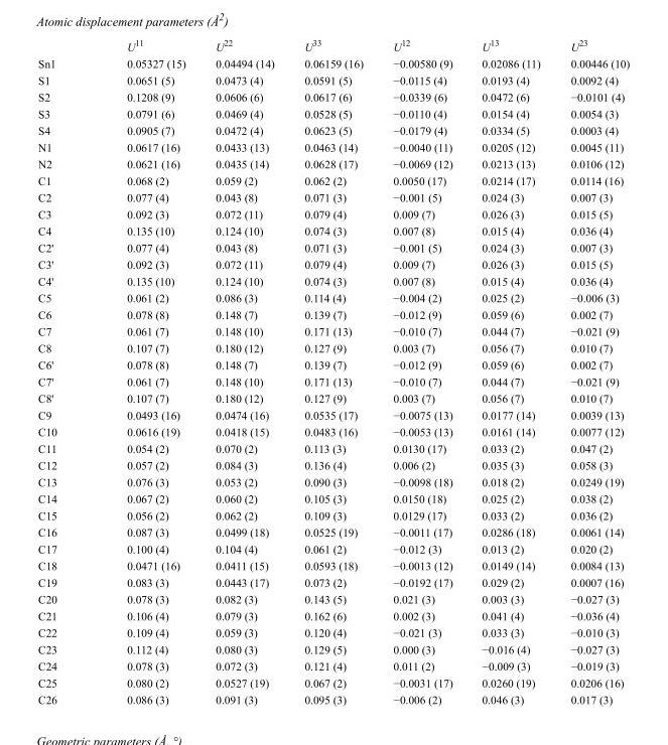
<table><thead><tr><td></td><td>U<sup>11</sup></td><td>U<sup>22</sup></td><td>U<sup>33</sup></td><td>U<sup>12</sup></td><td>U<sup>13</sup></td><td>U<sup>23</sup></td></tr></thead><tbody><tr><td>Sn1</td><td>0.05327 (15)</td><td>0.04494 (14)</td><td>0.06159 (16)</td><td>−0.00580 (9)</td><td>0.02086 (11)</td><td>0.00446 (10)</td></tr><tr><td>S1</td><td>0.0651 (5)</td><td>0.0473 (4)</td><td>0.0591 (5)</td><td>−0.0115 (4)</td><td>0.0193 (4)</td><td>0.0092 (4)</td></tr><tr><td>S2</td><td>0.1208 (9)</td><td>0.0606 (6)</td><td>0.0617 (6)</td><td>−0.0339 (6)</td><td>0.0472 (6)</td><td>−0.0101 (4)</td></tr><tr><td>S3</td><td>0.0791 (6)</td><td>0.0469 (4)</td><td>0.0528 (5)</td><td>−0.0110 (4)</td><td>0.0154 (4)</td><td>0.0054 (3)</td></tr><tr><td>S4</td><td>0.0905 (7)</td><td>0.0472 (4)</td><td>0.0623 (5)</td><td>−0.0179 (4)</td><td>0.0334 (5)</td><td>0.0003 (4)</td></tr><tr><td>N1</td><td>0.0617 (16)</td><td>0.0433 (13)</td><td>0.0463 (14)</td><td>−0.0040 (11)</td><td>0.0205 (12)</td><td>0.0045 (11)</td></tr><tr><td>N2</td><td>0.0621 (16)</td><td>0.0435 (14)</td><td>0.0628 (17)</td><td>−0.0069 (12)</td><td>0.0213 (13)</td><td>0.0106 (12)</td></tr><tr><td>C1</td><td>0.068 (2)</td><td>0.059 (2)</td><td>0.062 (2)</td><td>0.0050 (17)</td><td>0.0214 (17)</td><td>0.0114 (16)</td></tr><tr><td>C2</td><td>0.077 (4)</td><td>0.043 (8)</td><td>0.071 (3)</td><td>−0.001 (5)</td><td>0.024 (3)</td><td>0.007 (3)</td></tr><tr><td>C3</td><td>0.092 (3)</td><td>0.072 (11)</td><td>0.079 (4)</td><td>0.009 (7)</td><td>0.026 (3)</td><td>0.015 (5)</td></tr><tr><td>C4</td><td>0.135 (10)</td><td>0.124 (10)</td><td>0.074 (3)</td><td>0.007 (8)</td><td>0.015 (4)</td><td>0.036 (4)</td></tr><tr><td>C2&#x27;</td><td>0.077 (4)</td><td>0.043 (8)</td><td>0.071 (3)</td><td>−0.001 (5)</td><td>0.024 (3)</td><td>0.007 (3)</td></tr><tr><td>C3&#x27;</td><td>0.092 (3)</td><td>0.072 (11)</td><td>0.079 (4)</td><td>0.009 (7)</td><td>0.026 (3)</td><td>0.015 (5)</td></tr><tr><td>C4&#x27;</td><td>0.135 (10)</td><td>0.124 (10)</td><td>0.074 (3)</td><td>0.007 (8)</td><td>0.015 (4)</td><td>0.036 (4)</td></tr><tr><td>C5</td><td>0.061 (2)</td><td>0.086 (3)</td><td>0.114 (4)</td><td>−0.004 (2)</td><td>0.025 (2)</td><td>−0.006 (3)</td></tr><tr><td>C6</td><td>0.078 (8)</td><td>0.148 (7)</td><td>0.139 (7)</td><td>−0.012 (9)</td><td>0.059 (6)</td><td>0.002 (7)</td></tr><tr><td>C7</td><td>0.061 (7)</td><td>0.148 (10)</td><td>0.171 (13)</td><td>−0.010 (7)</td><td>0.044 (7)</td><td>−0.021 (9)</td></tr><tr><td>C8</td><td>0.107 (7)</td><td>0.180 (12)</td><td>0.127 (9)</td><td>0.003 (7)</td><td>0.056 (7)</td><td>0.010 (7)</td></tr><tr><td>C6&#x27;</td><td>0.078 (8)</td><td>0.148 (7)</td><td>0.139 (7)</td><td>−0.012 (9)</td><td>0.059 (6)</td><td>0.002 (7)</td></tr><tr><td>C7&#x27;</td><td>0.061 (7)</td><td>0.148 (10)</td><td>0.171 (13)</td><td>−0.010 (7)</td><td>0.044 (7)</td><td>−0.021 (9)</td></tr><tr><td>C8&#x27;</td><td>0.107 (7)</td><td>0.180 (12)</td><td>0.127 (9)</td><td>0.003 (7)</td><td>0.056 (7)</td><td>0.010 (7)</td></tr><tr><td>C9</td><td>0.0493 (16)</td><td>0.0474 (16)</td><td>0.0535 (17)</td><td>−0.0075 (13)</td><td>0.0177 (14)</td><td>0.0039 (13)</td></tr><tr><td>C10</td><td>0.0616 (19)</td><td>0.0418 (15)</td><td>0.0483 (16)</td><td>−0.0053 (13)</td><td>0.0161 (14)</td><td>0.0077 (12)</td></tr><tr><td>C11</td><td>0.054 (2)</td><td>0.070 (2)</td><td>0.113 (3)</td><td>0.0130 (17)</td><td>0.033 (2)</td><td>0.047 (2)</td></tr><tr><td>C12</td><td>0.057 (2)</td><td>0.084 (3)</td><td>0.136 (4)</td><td>0.006 (2)</td><td>0.035 (3)</td><td>0.058 (3)</td></tr><tr><td>C13</td><td>0.076 (3)</td><td>0.053 (2)</td><td>0.090 (3)</td><td>−0.0098 (18)</td><td>0.018 (2)</td><td>0.0249 (19)</td></tr><tr><td>C14</td><td>0.067 (2)</td><td>0.060 (2)</td><td>0.105 (3)</td><td>0.0150 (18)</td><td>0.025 (2)</td><td>0.038 (2)</td></tr><tr><td>C15</td><td>0.056 (2)</td><td>0.062 (2)</td><td>0.109 (3)</td><td>0.0129 (17)</td><td>0.033 (2)</td><td>0.036 (2)</td></tr><tr><td>C16</td><td>0.087 (3)</td><td>0.0499 (18)</td><td>0.0525 (19)</td><td>−0.0011 (17)</td><td>0.0286 (18)</td><td>0.0061 (14)</td></tr><tr><td>C17</td><td>0.100 (4)</td><td>0.104 (4)</td><td>0.061 (2)</td><td>−0.012 (3)</td><td>0.013 (2)</td><td>0.020 (2)</td></tr><tr><td>C18</td><td>0.0471 (16)</td><td>0.0411 (15)</td><td>0.0593 (18)</td><td>−0.0013 (12)</td><td>0.0149 (14)</td><td>0.0084 (13)</td></tr><tr><td>C19</td><td>0.083 (3)</td><td>0.0443 (17)</td><td>0.073 (2)</td><td>−0.0192 (17)</td><td>0.029 (2)</td><td>0.0007 (16)</td></tr><tr><td>C20</td><td>0.078 (3)</td><td>0.082 (3)</td><td>0.143 (5)</td><td>0.021 (3)</td><td>0.003 (3)</td><td>−0.027 (3)</td></tr><tr><td>C21</td><td>0.106 (4)</td><td>0.079 (3)</td><td>0.162 (6)</td><td>0.002 (3)</td><td>0.041 (4)</td><td>−0.036 (4)</td></tr><tr><td>C22</td><td>0.109 (4)</td><td>0.059 (3)</td><td>0.120 (4)</td><td>−0.021 (3)</td><td>0.033 (3)</td><td>−0.010 (3)</td></tr><tr><td>C23</td><td>0.112 (4)</td><td>0.080 (3)</td><td>0.129 (5)</td><td>0.000 (3)</td><td>−0.016 (4)</td><td>−0.027 (3)</td></tr><tr><td>C24</td><td>0.078 (3)</td><td>0.072 (3)</td><td>0.121 (4)</td><td>0.011 (2)</td><td>−0.009 (3)</td><td>−0.019 (3)</td></tr><tr><td>C25</td><td>0.080 (2)</td><td>0.0527 (19)</td><td>0.067 (2)</td><td>−0.0031 (17)</td><td>0.0260 (19)</td><td>0.0206 (16)</td></tr><tr><td>C26</td><td>0.086 (3)</td><td>0.091 (3)</td><td>0.095 (3)</td><td>−0.006 (2)</td><td>0.046 (3)</td><td>0.017 (3)</td></tr></tbody></table>